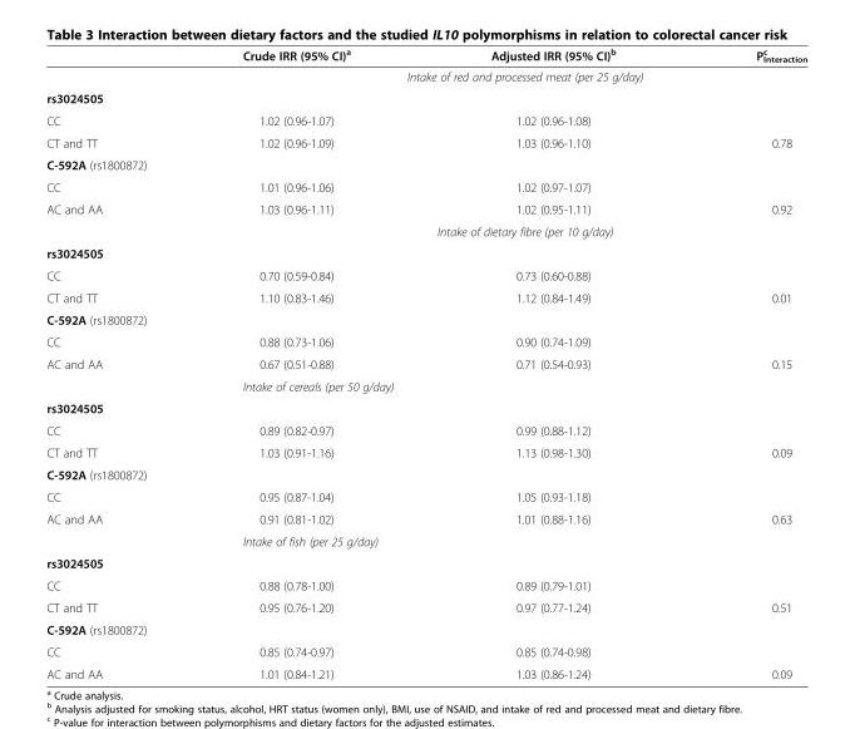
<table><thead><tr><td></td><td>Crude IRR (95% CI)<sup>a</sup></td><td>Adjusted IRR (95% CI)<sup>b</sup></td><td>P<sub>Interaction</sub> <sup>c</sup></td></tr></thead><tbody><tr><td></td><td colspan="3">Intake of red and processed meat (per 25 g/day)</td></tr><tr><td colspan="4">rs3024505</td></tr><tr><td>CC</td><td>1.02 (0.96-1.07)</td><td>1.02 (0.96-1.08)</td><td></td></tr><tr><td>CT and TT</td><td>1.02 (0.96-1.09)</td><td>1.03 (0.96-1.10)</td><td>0.78</td></tr><tr><td colspan="4">C-592A (rs1800872)</td></tr><tr><td>CC</td><td>1.01 (0.96-1.06)</td><td>1.02 (0.97-1.07)</td><td></td></tr><tr><td rowspan="2">AC and AA</td><td>1.03 (0.96-1.11)</td><td>1.02 (0.95-1.11)</td><td>0.92</td></tr><tr><td colspan="3">Intake of dietary fibre (per 10 g/day)</td></tr><tr><td colspan="4">rs3024505</td></tr><tr><td>CC</td><td>0.70 (0.59-0.84)</td><td>0.73 (0.60-0.88)</td><td></td></tr><tr><td>CT and TT</td><td>1.10 (0.83-1.46)</td><td>1.12 (0.84-1.49)</td><td>0.01</td></tr><tr><td colspan="4">C-592A (rs1800872)</td></tr><tr><td>CC</td><td>0.88 (0.73-1.06)</td><td>0.90 (0.74-1.09)</td><td></td></tr><tr><td>AC and AA</td><td>0.67 (0.51-0.88)</td><td>0.71 (0.54-0.93)</td><td>0.15</td></tr><tr><td colspan="4">Intake of cereals (per 50 g/day)</td></tr><tr><td colspan="4">rs3024505</td></tr><tr><td>CC</td><td>0.89 (0.82-0.97)</td><td>0.99 (0.88-1.12)</td><td></td></tr><tr><td>CT and TT</td><td>1.03 (0.91-1.16)</td><td>1.13 (0.98-1.30)</td><td>0.09</td></tr><tr><td colspan="4">C-592A (rs1800872)</td></tr><tr><td>CC</td><td>0.95 (0.87-1.04)</td><td>1.05 (0.93-1.18)</td><td></td></tr><tr><td>AC and AA</td><td>0.91 (0.81-1.02)</td><td>1.01 (0.88-1.16)</td><td>0.63</td></tr><tr><td colspan="4">Intake of fish (per 25 g/day)</td></tr><tr><td colspan="4">rs3024505</td></tr><tr><td>CC</td><td>0.88 (0.78-1.00)</td><td>0.89 (0.79-1.01)</td><td></td></tr><tr><td>CT and TT</td><td>0.95 (0.76-1.20)</td><td>0.97 (0.77-1.24)</td><td>0.51</td></tr><tr><td colspan="4">C-592A (rs1800872)</td></tr><tr><td>CC</td><td>0.85 (0.74-0.97)</td><td>0.85 (0.74-0.98)</td><td></td></tr><tr><td>AC and AA</td><td>1.01 (0.84-1.21)</td><td>1.03 (0.86-1.24)</td><td>0.09</td></tr></tbody></table>